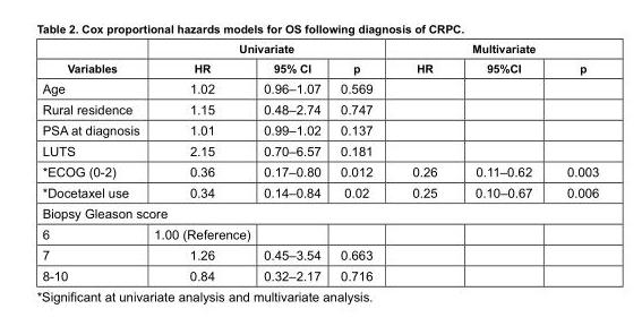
<table><thead><tr><td rowspan="2">Variables</td><td colspan="3">Univariate</td><td colspan="3">Multivariate</td></tr><tr><td>HR</td><td>95% CI</td><td>p</td><td>HR</td><td>95%CI</td><td>p</td></tr></thead><tbody><tr><td>Age</td><td>1.02</td><td>0.96–1.07</td><td>0.569</td><td></td><td></td><td></td></tr><tr><td>Rural residence</td><td>1.15</td><td>0.48–2.74</td><td>0.747</td><td></td><td></td><td></td></tr><tr><td>PSA at diagnosis</td><td>1.01</td><td>0.99–1.02</td><td>0.137</td><td></td><td></td><td></td></tr><tr><td>LUTS</td><td>2.15</td><td>0.70–6.57</td><td>0.181</td><td></td><td></td><td></td></tr><tr><td>*ECOG (0-2)</td><td>0.36</td><td>0.17–0.80</td><td>0.012</td><td>0.26</td><td>0.11–0.62</td><td>0.003</td></tr><tr><td>*Docetaxel use</td><td>0.34</td><td>0.14–0.84</td><td>0.02</td><td>0.25</td><td>0.10–0.67</td><td>0.006</td></tr><tr><td colspan="7">Biopsy Gleason score</td></tr><tr><td>6</td><td>1.00 (Reference)</td><td></td><td></td><td></td><td></td><td></td></tr><tr><td>7</td><td>1.26</td><td>0.45–3.54</td><td>0.663</td><td></td><td></td><td></td></tr><tr><td>8-10</td><td>0.84</td><td>0.32–2.17</td><td>0.716</td><td></td><td></td><td></td></tr></tbody></table>